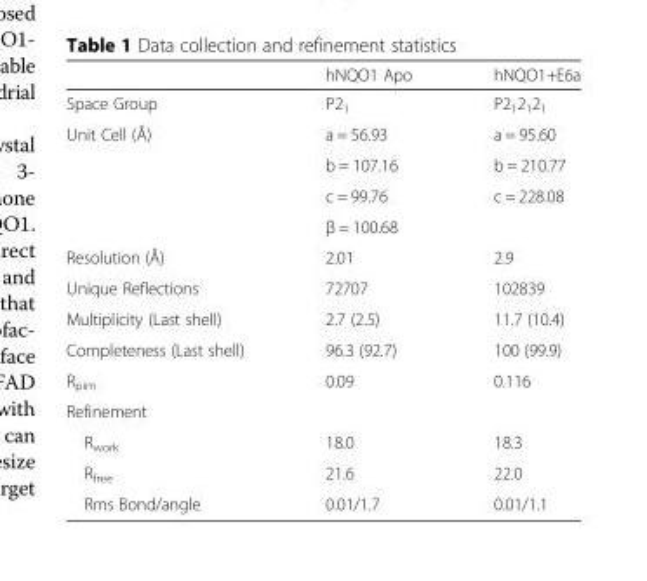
<table><thead><tr><td></td><td>hNQO1 Apo</td><td>hNQO1+E6a</td></tr></thead><tbody><tr><td>Space Group</td><td>P2<sub>1</sub></td><td>P2<sub>1</sub>2<sub>1</sub>2<sub>1</sub></td></tr><tr><td rowspan="4">Unit Cell (Å)</td><td>a = 56.93</td><td>a = 95.60</td></tr><tr><td>b = 107.16</td><td>b = 210.77</td></tr><tr><td>c = 99.76</td><td rowspan="2">c = 228.08</td></tr><tr><td>β = 100.68</td></tr><tr><td>Resolution (Å)</td><td>2.01</td><td>2.9</td></tr><tr><td>Unique Reflections</td><td>72707</td><td>102839</td></tr><tr><td>Multiplicity (Last shell)</td><td>2.7 (2.5)</td><td>11.7 (10.4)</td></tr><tr><td>Completeness (Last shell)</td><td>96.3 (92.7)</td><td>100 (99.9)</td></tr><tr><td>R<sub>pim</sub></td><td>0.09</td><td>0.116</td></tr><tr><td colspan="3">Refinement</td></tr><tr><td>R<sub>work</sub></td><td>18.0</td><td>18.3</td></tr><tr><td>R<sub>free</sub></td><td>21.6</td><td>22.0</td></tr><tr><td>Rms Bond/angle</td><td>0.01/1.7</td><td>0.01/1.1</td></tr></tbody></table>